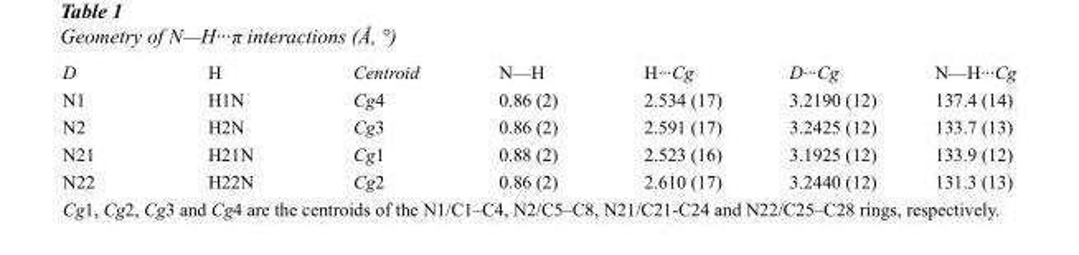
<table><tbody><tr><td>D</td><td>H</td><td>Centroid</td><td>N—H</td><td>H···Cg</td><td>D···Cg</td><td>N—H···Cg</td></tr><tr><td>N1</td><td>H1N</td><td>Cg4</td><td>0.86 (2)</td><td>2.534 (17)</td><td>3.2190 (12)</td><td>137.4 (14)</td></tr><tr><td>N2</td><td>H2N</td><td>Cg3</td><td>0.86 (2)</td><td>2.591 (17)</td><td>3.2425 (12)</td><td>133.7 (13)</td></tr><tr><td>N21</td><td>H21N</td><td>Cg1</td><td>0.88 (2)</td><td>2.523 (16)</td><td>3.1925 (12)</td><td>133.9 (12)</td></tr><tr><td>N22</td><td>H22N</td><td>Cg2</td><td>0.86 (2)</td><td>2.610 (17)</td><td>3.2440 (12)</td><td>131.3 (13)</td></tr></tbody></table>